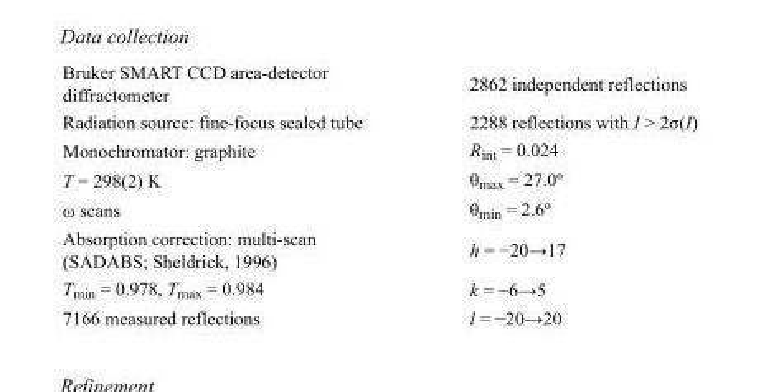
<table><tbody><tr><td>Bruker SMART CCD area-detector diffractometer</td><td>2862 independent reflections</td></tr><tr><td>Radiation source: fine-focus sealed tube</td><td>2288 reflections with I &gt; 2σ(I)</td></tr><tr><td>Monochromator: graphite</td><td>R<sub>int</sub> = 0.024</td></tr><tr><td>T = 298(2) K</td><td>θ<sub>max</sub> = 27.0º</td></tr><tr><td>ω scans</td><td>θ<sub>min</sub> = 2.6º</td></tr><tr><td>Absorption correction: multi-scan (SADABS; Sheldrick, 1996)</td><td>h = −20→17</td></tr><tr><td>T<sub>min</sub> = 0.978, T<sub>max</sub> = 0.984</td><td>k = −6→5</td></tr><tr><td>7166 measured reflections</td><td>l = −20→20</td></tr></tbody></table>